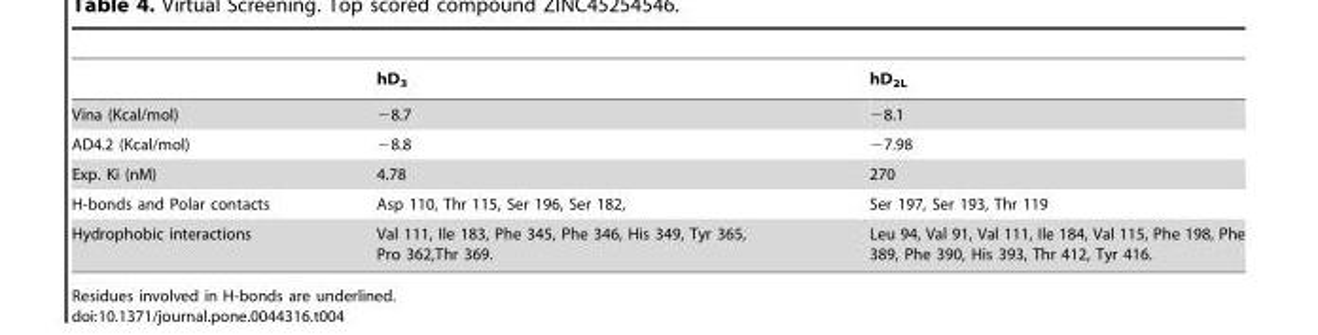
<table><thead><tr><td></td><td>hD<sub>3</sub></td><td>hD<sub>2L</sub></td></tr></thead><tbody><tr><td>Vina (Kcal/mol)</td><td>−8.7</td><td>−8.1</td></tr><tr><td>AD4.2 (Kcal/mol)</td><td>−8.8</td><td>−7.98</td></tr><tr><td>Exp. Ki (nM)</td><td>4.78</td><td>270</td></tr><tr><td>H-bonds and Polar contacts</td><td>Asp 110, Thr 115, Ser 196, Ser 182,</td><td>Ser 197, Ser 193, Thr 119</td></tr><tr><td>Hydrophobic interactions</td><td>Val 111, Ile 183, Phe 345, Phe 346, His 349, Tyr 365, Pro 362,Thr 369.</td><td>Leu 94, Val 91, Val 111, Ile 184, Val 115, Phe 198, Phe 389, Phe 390, His 393, Thr 412, Tyr 416.</td></tr></tbody></table>